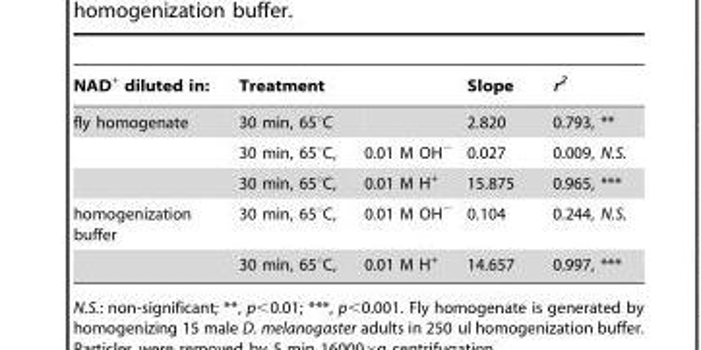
<table><thead><tr><td rowspan="2">NAD<sup>+</sup> diluted in: fly homogenate</td><td colspan="2">Treatment</td><td rowspan="2">Slope 2.820</td><td rowspan="2">r<sup>2</sup> 0.793, **</td></tr><tr><td>30 min, 65°C</td><td></td></tr></thead><tbody><tr><td></td><td>30 min, 65°C,</td><td>0.01 M OH<sup>−</sup></td><td>0.027</td><td>0.009, N.S.</td></tr><tr><td></td><td>30 min, 65°C,</td><td>0.01 M H<sup>+</sup></td><td>15.875</td><td>0.965, ***</td></tr><tr><td rowspan="2">homogenization buffer</td><td>30 min, 65°C,</td><td>0.01 M OH<sup>−</sup></td><td>0.104</td><td>0.244, N.S.</td></tr><tr><td>30 min, 65°C,</td><td>0.01 M H<sup>+</sup></td><td>14.657</td><td>0.997, ***</td></tr></tbody></table>